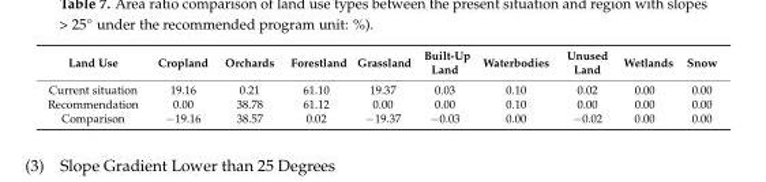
<table><thead><tr><td>Land Use</td><td>Cropland</td><td>Orchards</td><td>Forestland</td><td>Grassland</td><td>Built-Up Land</td><td>Waterbodies</td><td>Unused Land</td><td>Wetlands</td><td>Snow</td></tr></thead><tbody><tr><td>Current situation</td><td>19.16</td><td>0.21</td><td>61.10</td><td>19.37</td><td>0.03</td><td>0.10</td><td>0.02</td><td>0.00</td><td>0.00</td></tr><tr><td>Recommendation</td><td>0.00</td><td>38.78</td><td>61.12</td><td>0.00</td><td>0.00</td><td>0.10</td><td>0.00</td><td>0.00</td><td>0.00</td></tr><tr><td>Comparison</td><td>−19.16</td><td>38.57</td><td>0.02</td><td>−19.37</td><td>−0.03</td><td>0.00</td><td>−0.02</td><td>0.00</td><td>0.00</td></tr></tbody></table>